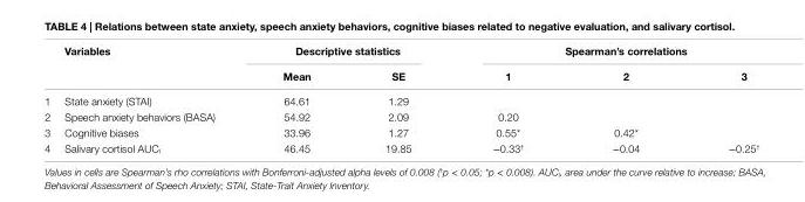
<table><thead><tr><td rowspan="2"></td><td rowspan="2">Variables</td><td colspan="2">Descriptive statistics</td><td colspan="3">spearman’s correlations</td></tr><tr><td>Mean</td><td>se</td><td>1</td><td>2</td><td>3</td></tr></thead><tbody><tr><td>1</td><td>State anxiety (STAI)</td><td>64.61</td><td>1.29</td><td></td><td></td><td></td></tr><tr><td>2</td><td>Speech anxiety behaviors (BASA)</td><td>54.92</td><td>2.09</td><td>0.20</td><td></td><td></td></tr><tr><td>3</td><td>Cognitive biases</td><td>33.96</td><td>1.27</td><td>0.55*</td><td>0.42*</td><td></td></tr><tr><td>4</td><td>Salivary cortisol AUC<sub>I</sub></td><td>46.45</td><td>19.85</td><td>−0.33<sup>†</sup></td><td>−0.04</td><td>−0.25<sup>†</sup></td></tr></tbody></table>